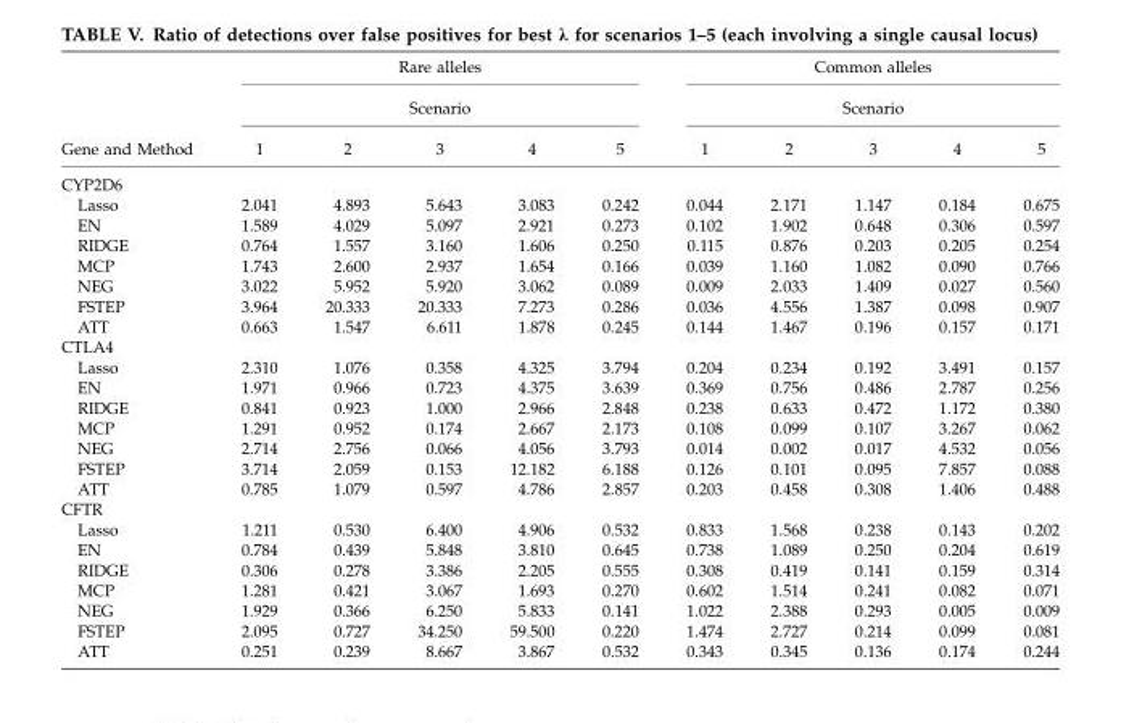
<table><thead><tr><td rowspan="3">Gene and Method</td><td rowspan="2" colspan="5">Rare alleles Scenario</td><td rowspan="2" colspan="5">Common alleles Scenario</td></tr><tr></tr><tr><td>1</td><td>2</td><td>3</td><td>4</td><td>5</td><td>1</td><td>2</td><td>3</td><td>4</td><td>5</td></tr></thead><tbody><tr><td colspan="11">CYP2D6</td></tr><tr><td>Lasso</td><td>2.041</td><td>4.893</td><td>5.643</td><td>3.083</td><td>0.242</td><td>0.044</td><td>2.171</td><td>1.147</td><td>0.184</td><td>0.675</td></tr><tr><td>EN</td><td>1.589</td><td>4.029</td><td>5.097</td><td>2.921</td><td>0.273</td><td>0.102</td><td>1.902</td><td>0.648</td><td>0.306</td><td>0.597</td></tr><tr><td>RIDGE</td><td>0.764</td><td>1.557</td><td>3.160</td><td>1.606</td><td>0.250</td><td>0.115</td><td>0.876</td><td>0.203</td><td>0.205</td><td>0.254</td></tr><tr><td>MCP</td><td>1.743</td><td>2.600</td><td>2.937</td><td>1.654</td><td>0.166</td><td>0.039</td><td>1.160</td><td>1.082</td><td>0.090</td><td>0.766</td></tr><tr><td>NEG</td><td>3.022</td><td>5.952</td><td>5.920</td><td>3.062</td><td>0.089</td><td>0.009</td><td>2.033</td><td>1.409</td><td>0.027</td><td>0.560</td></tr><tr><td>FSTEP</td><td>3.964</td><td>20.333</td><td>20.333</td><td>7.273</td><td>0.286</td><td>0.036</td><td>4.556</td><td>1.387</td><td>0.098</td><td>0.907</td></tr><tr><td>ATT</td><td>0.663</td><td>1.547</td><td>6.611</td><td>1.878</td><td>0.245</td><td>0.144</td><td>1.467</td><td>0.196</td><td>0.157</td><td>0.171</td></tr><tr><td colspan="11">CTLA4</td></tr><tr><td>Lasso</td><td>2.310</td><td>1.076</td><td>0.358</td><td>4.325</td><td>3.794</td><td>0.204</td><td>0.234</td><td>0.192</td><td>3.491</td><td>0.157</td></tr><tr><td>EN</td><td>1.971</td><td>0.966</td><td>0.723</td><td>4.375</td><td>3.639</td><td>0.369</td><td>0.756</td><td>0.486</td><td>2.787</td><td>0.256</td></tr><tr><td>RIDGE</td><td>0.841</td><td>0.923</td><td>1.000</td><td>2.966</td><td>2.848</td><td>0.238</td><td>0.633</td><td>0.472</td><td>1.172</td><td>0.380</td></tr><tr><td>MCP</td><td>1.291</td><td>0.952</td><td>0.174</td><td>2.667</td><td>2.173</td><td>0.108</td><td>0.099</td><td>0.107</td><td>3.267</td><td>0.062</td></tr><tr><td>NEG</td><td>2.714</td><td>2.756</td><td>0.066</td><td>4.056</td><td>3.793</td><td>0.014</td><td>0.002</td><td>0.017</td><td>4.532</td><td>0.056</td></tr><tr><td>FSTEP</td><td>3.714</td><td>2.059</td><td>0.153</td><td>12.182</td><td>6.188</td><td>0.126</td><td>0.101</td><td>0.095</td><td>7.857</td><td>0.088</td></tr><tr><td>ATT</td><td>0.785</td><td>1.079</td><td>0.597</td><td>4.786</td><td>2.857</td><td>0.203</td><td>0.458</td><td>0.308</td><td>1.406</td><td>0.488</td></tr><tr><td colspan="11">CFTR</td></tr><tr><td>Lasso</td><td>1.211</td><td>0.530</td><td>6.400</td><td>4.906</td><td>0.532</td><td>0.833</td><td>1.568</td><td>0.238</td><td>0.143</td><td>0.202</td></tr><tr><td>EN</td><td>0.784</td><td>0.439</td><td>5.848</td><td>3.810</td><td>0.645</td><td>0.738</td><td>1.089</td><td>0.250</td><td>0.204</td><td>0.619</td></tr><tr><td>RIDGE</td><td>0.306</td><td>0.278</td><td>3.386</td><td>2.205</td><td>0.555</td><td>0.308</td><td>0.419</td><td>0.141</td><td>0.159</td><td>0.314</td></tr><tr><td>MCP</td><td>1.281</td><td>0.421</td><td>3.067</td><td>1.693</td><td>0.270</td><td>0.602</td><td>1.514</td><td>0.241</td><td>0.082</td><td>0.071</td></tr><tr><td>NEG</td><td>1.929</td><td>0.366</td><td>6.250</td><td>5.833</td><td>0.141</td><td>1.022</td><td>2.388</td><td>0.293</td><td>0.005</td><td>0.009</td></tr><tr><td>FSTEP</td><td>2.095</td><td>0.727</td><td>34.250</td><td>59.500</td><td>0.220</td><td>1.474</td><td>2.727</td><td>0.214</td><td>0.099</td><td>0.081</td></tr><tr><td>ATT</td><td>0.251</td><td>0.239</td><td>8.667</td><td>3.867</td><td>0.532</td><td>0.343</td><td>0.345</td><td>0.136</td><td>0.174</td><td>0.244</td></tr></tbody></table>